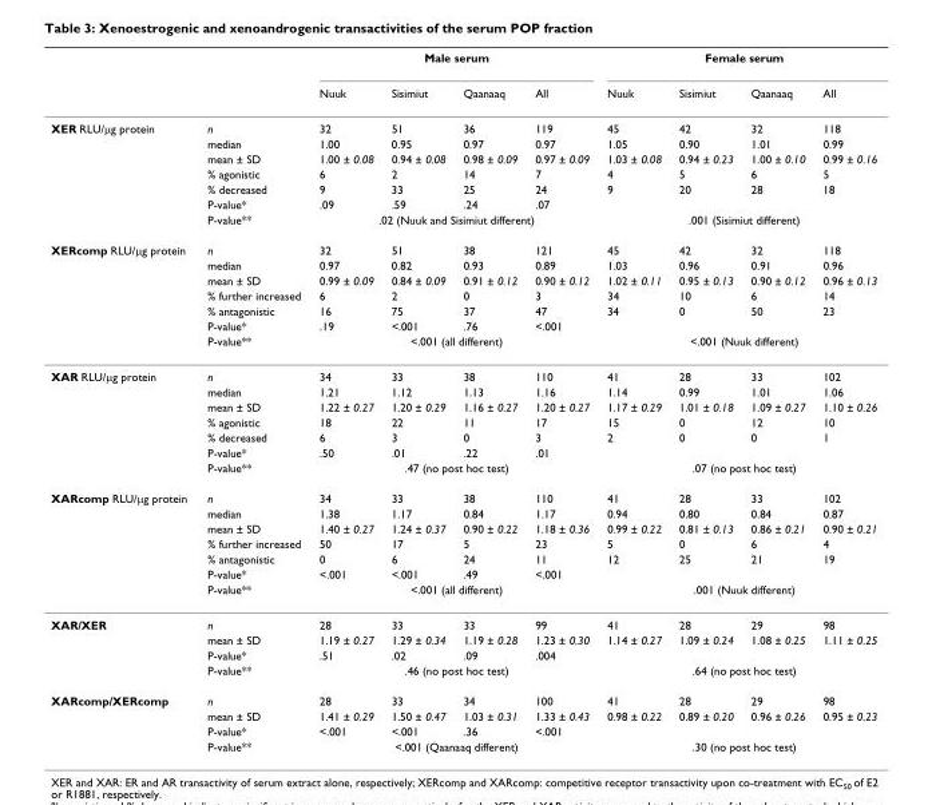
<table><thead><tr><td rowspan="2"></td><td rowspan="2"></td><td colspan="4">Male serum</td><td colspan="4">Female serum</td></tr><tr><td>Nuuk</td><td>Sisimiut</td><td>Qaanaaq</td><td>All</td><td>Nuuk</td><td>Sisimiut</td><td>Qaanaaq</td><td>All</td></tr></thead><tbody><tr><td rowspan="7">XER RLU/μg protein</td><td>n</td><td>32</td><td>51</td><td>36</td><td>119</td><td>45</td><td>42</td><td>32</td><td>118</td></tr><tr><td>median</td><td>1.00</td><td>0.95</td><td>0.97</td><td>0.97</td><td>1.05</td><td>0.90</td><td>1.01</td><td>0.99</td></tr><tr><td>mean ± SD</td><td>1.00 ± 0.08</td><td>0.94 ± 0.08</td><td>0.98 ± 0.09</td><td>0.97 ± 0.09</td><td>1.03 ± 0.08</td><td>0.94 ± 0.23</td><td>1.00 ± 0.10</td><td>0.99 ± 0.16</td></tr><tr><td>% agonistic</td><td>6</td><td>2</td><td>14</td><td>7</td><td>4</td><td>5</td><td>6</td><td>5</td></tr><tr><td>% decreased</td><td>9</td><td>33</td><td>25</td><td>24</td><td>9</td><td>20</td><td>28</td><td>18</td></tr><tr><td>P-value*</td><td>.09</td><td>.59</td><td>.24</td><td>.07</td><td></td><td></td><td></td><td></td></tr><tr><td>P-value**</td><td colspan="4">.02 (Nuuk and Sisimiut different)</td><td colspan="4">.001 (Sisimiut different)</td></tr><tr><td rowspan="7">XERcomp RLU/μg protein</td><td>n</td><td>32</td><td>51</td><td>38</td><td>121</td><td>45</td><td>42</td><td>32</td><td>118</td></tr><tr><td>median</td><td>0.97</td><td>0.82</td><td>0.93</td><td>0.89</td><td>1.03</td><td>0.96</td><td>0.91</td><td>0.96</td></tr><tr><td>mean ± SD</td><td>0.99 ± 0.09</td><td>0.84 ± 0.09</td><td>0.91 ± 0.12</td><td>0.90 ± 0.12</td><td>1.02 ± 0.11</td><td>0.95 ± 0.13</td><td>0.90 ± 0.12</td><td>0.96 ± 0.13</td></tr><tr><td>% further increased</td><td>6</td><td>2</td><td>0</td><td>3</td><td>34</td><td>10</td><td>6</td><td>14</td></tr><tr><td>% antagonistic</td><td>16</td><td>75</td><td>37</td><td>47</td><td>34</td><td>0</td><td>50</td><td>23</td></tr><tr><td>P-value*</td><td>.19</td><td>&lt;.001</td><td>.76</td><td>&lt;.001</td><td></td><td></td><td></td><td></td></tr><tr><td>P-value**</td><td colspan="4">&lt;.001 (all different)</td><td colspan="4">&lt;.001 (Nuuk different)</td></tr><tr><td rowspan="7">XAR RLU/μg protein</td><td>n</td><td>34</td><td>33</td><td>38</td><td>110</td><td>41</td><td>28</td><td>33</td><td>102</td></tr><tr><td>median</td><td>1.21</td><td>1.12</td><td>1.13</td><td>1.16</td><td>1.14</td><td>0.99</td><td>1.01</td><td>1.06</td></tr><tr><td>mean ± SD</td><td>1.22 ± 0.27</td><td>1.20 ± 0.29</td><td>1.16 ± 0.27</td><td>1.20 ± 0.27</td><td>1.17 ± 0.29</td><td>1.01 ± 0.18</td><td>1.09 ± 0.27</td><td>1.10 ± 0.26</td></tr><tr><td>% agonistic</td><td>18</td><td>22</td><td>11</td><td>17</td><td>15</td><td>0</td><td>12</td><td>10</td></tr><tr><td>% decreased</td><td>6</td><td>3</td><td>0</td><td>3</td><td>2</td><td>0</td><td>0</td><td>1</td></tr><tr><td>P-value*</td><td>.50</td><td>.01</td><td>.22</td><td>.01</td><td></td><td></td><td></td><td></td></tr><tr><td>P-value**</td><td colspan="4">.47 (no post hoc test)</td><td colspan="4">.07 (no post hoc test)</td></tr><tr><td rowspan="7">XARcomp RLU/μg protein</td><td>n</td><td>34</td><td>33</td><td>38</td><td>110</td><td>41</td><td>28</td><td>33</td><td>102</td></tr><tr><td>median</td><td>1.38</td><td>1.17</td><td>0.84</td><td>1.17</td><td>0.94</td><td>0.80</td><td>0.84</td><td>0.87</td></tr><tr><td>mean ± SD</td><td>1.40 ± 0.27</td><td>1.24 ± 0.37</td><td>0.90 ± 0.22</td><td>1.18 ± 0.36</td><td>0.99 ± 0.22</td><td>0.81 ± 0.13</td><td>0.86 ± 0.21</td><td>0.90 ± 0.21</td></tr><tr><td>% further increased</td><td>50</td><td>17</td><td>5</td><td>23</td><td>5</td><td>0</td><td>6</td><td>4</td></tr><tr><td>% antagonistic</td><td>0</td><td>6</td><td>24</td><td>11</td><td>12</td><td>25</td><td>21</td><td>19</td></tr><tr><td>P-value*</td><td>&lt;.001</td><td>&lt;.001</td><td>.49</td><td>&lt;.001</td><td></td><td></td><td></td><td></td></tr><tr><td>P-value**</td><td colspan="4">&lt;.001 (all different)</td><td colspan="4">.001 (Nuuk different)</td></tr><tr><td rowspan="4">XAR/XER</td><td>n</td><td>28</td><td>33</td><td>33</td><td>99</td><td>41</td><td>28</td><td>29</td><td>98</td></tr><tr><td>mean ± SD</td><td>1.19 ± 0.27</td><td>1.29 ± 0.34</td><td>1.19 ± 0.28</td><td>1.23 ± 0.30</td><td>1.14 ± 0.27</td><td>1.09 ± 0.24</td><td>1.08 ± 0.25</td><td>1.11 ± 0.25</td></tr><tr><td>P-value*</td><td>.51</td><td>.02</td><td>.09</td><td>.004</td><td></td><td></td><td></td><td></td></tr><tr><td>P-value**</td><td colspan="4">.46 (no post hoc test)</td><td colspan="4">.64 (no post hoc test)</td></tr><tr><td rowspan="4">XARcomp/XERcomp</td><td>n</td><td>28</td><td>33</td><td>34</td><td>100</td><td>41</td><td>28</td><td>29</td><td>98</td></tr><tr><td>mean ± SD</td><td>1.41 ± 0.29</td><td>1.50 ± 0.47</td><td>1.03 ± 0.31</td><td>1.33 ± 0.43</td><td>0.98 ± 0.22</td><td>0.89 ± 0.20</td><td>0.96 ± 0.26</td><td>0.95 ± 0.23</td></tr><tr><td>P-value*</td><td>&lt;.001</td><td>&lt;.001</td><td>.36</td><td>&lt;.001</td><td></td><td></td><td></td><td></td></tr><tr><td>P-value**</td><td colspan="4">&lt;.001 (Qaanaaq different)</td><td colspan="4">.30 (no post hoc test)</td></tr></tbody></table>